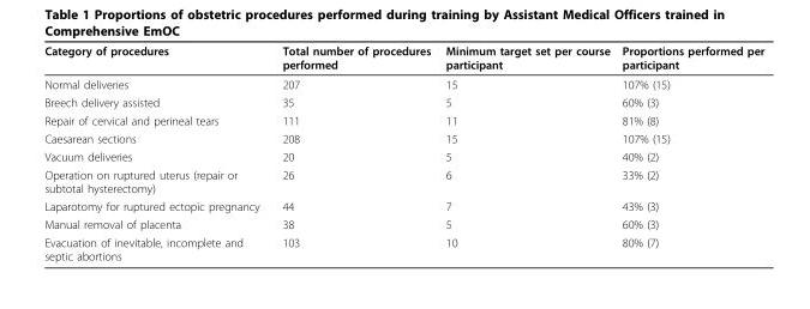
<table><thead><tr><td>Category of procedures</td><td>Total number of procedures performed</td><td>Minimum target set per course participant</td><td>Proportions performed per participant</td></tr></thead><tbody><tr><td>Normal deliveries</td><td>207</td><td>15</td><td>107% (15)</td></tr><tr><td>Breech delivery assisted</td><td>35</td><td>5</td><td>60% (3)</td></tr><tr><td>Repair of cervical and perineal tears</td><td>111</td><td>11</td><td>81% (8)</td></tr><tr><td>Caesarean sections</td><td>208</td><td>15</td><td>107% (15)</td></tr><tr><td>Vacuum deliveries</td><td>20</td><td>5</td><td>40% (2)</td></tr><tr><td>Operation on ruptured uterus (repair or subtotal hysterectomy)</td><td>26</td><td>6</td><td>33% (2)</td></tr><tr><td>Laparotomy for ruptured ectopic pregnancy</td><td>44</td><td>7</td><td>43% (3)</td></tr><tr><td>Manual removal of placenta</td><td>38</td><td>5</td><td>60% (3)</td></tr><tr><td>Evacuation of inevitable, incomplete and septic abortions</td><td>103</td><td>10</td><td>80% (7)</td></tr></tbody></table>